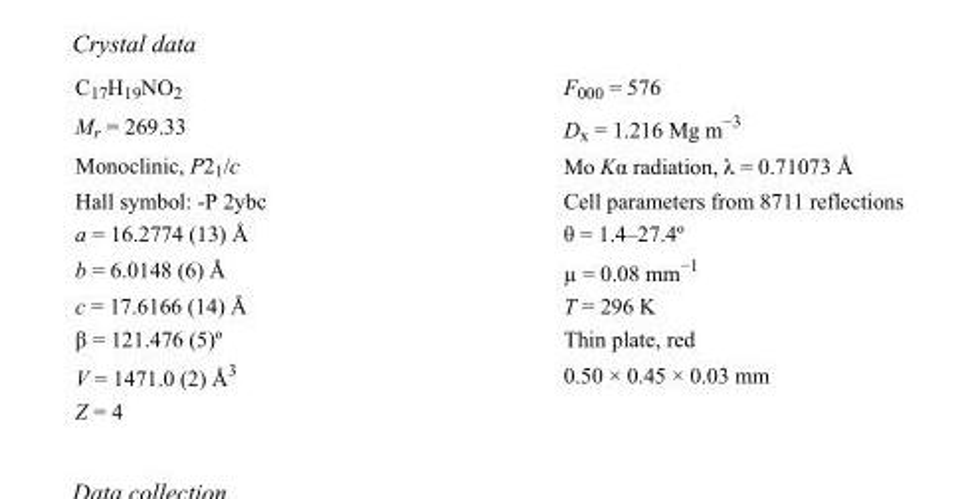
<table><tbody><tr><td>C<sub>17</sub>H<sub>19</sub>NO<sub>2</sub></td><td>F000 = 576</td></tr><tr><td>M<sub>r</sub> = 269.33</td><td>D<sub>x</sub> = 1.216 Mg m<sup>−3</sup></td></tr><tr><td>Monoclinic, P2<sub>1</sub>/c</td><td>Mo Kα radiation, λ = 0.71073 Å</td></tr><tr><td>Hall symbol: -P 2ybc</td><td>Cell parameters from 8711 reflections</td></tr><tr><td>a = 16.2774 (13) Å</td><td>θ = 1.4–27.4º</td></tr><tr><td>b = 6.0148 (6) Å</td><td>µ = 0.08 mm<sup>−1</sup></td></tr><tr><td>c = 17.6166 (14) Å</td><td>T = 296 K</td></tr><tr><td>β = 121.476 (5)º</td><td>Thin plate, red</td></tr><tr><td>V = 1471.0 (2) Å<sup>3</sup></td><td>0.50 × 0.45 × 0.03 mm</td></tr><tr><td>Z = 4</td><td></td></tr></tbody></table>